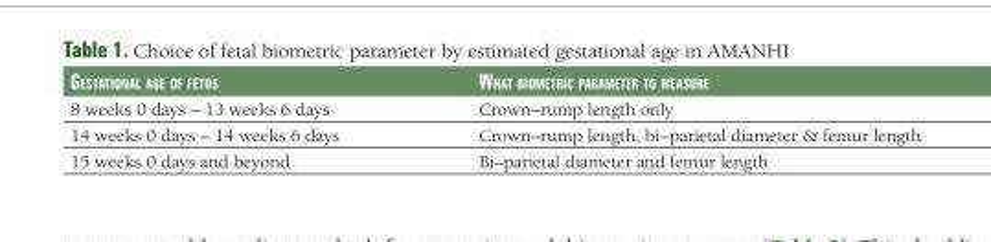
<table><thead><tr><td>Gestational aGe of fetus</td><td>What biometric parameter to measure</td></tr></thead><tbody><tr><td>8 weeks 0 days – 13 weeks 6 days</td><td>Crown–rump length only</td></tr><tr><td>14 weeks 0 days – 14 weeks 6 days</td><td>Crown–rump length, bi–parietal diameter &amp; femur length</td></tr><tr><td>15 weeks 0 days and beyond</td><td>Bi–parietal diameter and femur length</td></tr></tbody></table>